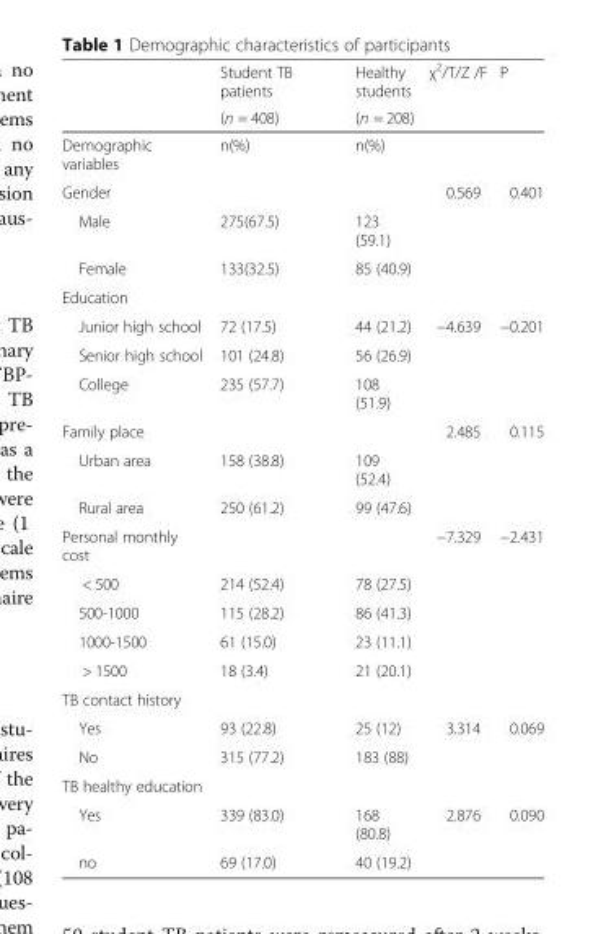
<table><thead><tr><td rowspan="2"></td><td rowspan="2">Student TB patients (n = 408)</td><td rowspan="2">Healthy students (n = 208)</td><td rowspan="2">χ<sup>2</sup>/T/Z /F</td><td rowspan="2">P</td></tr><tr></tr></thead><tbody><tr><td>Demographic variables</td><td>n(%)</td><td>n(%)</td><td></td><td></td></tr><tr><td>Gender</td><td></td><td></td><td>0.569</td><td>0.401</td></tr><tr><td>Male</td><td>275(67.5)</td><td>123 (59.1)</td><td></td><td></td></tr><tr><td>Female</td><td>133(32.5)</td><td>85 (40.9)</td><td></td><td></td></tr><tr><td colspan="5">Education</td></tr><tr><td>Junior high school</td><td>72 (17.5)</td><td>44 (21.2)</td><td>−4.639</td><td>−0.201</td></tr><tr><td>Senior high school</td><td>101 (24.8)</td><td>56 (26.9)</td><td></td><td></td></tr><tr><td>College</td><td>235 (57.7)</td><td>108 (51.9)</td><td></td><td></td></tr><tr><td>Family place</td><td></td><td></td><td>2.485</td><td>0.115</td></tr><tr><td>Urban area</td><td>158 (38.8)</td><td>109 (52.4)</td><td></td><td></td></tr><tr><td>Rural area</td><td>250 (61.2)</td><td>99 (47.6)</td><td></td><td></td></tr><tr><td>Personal monthly cost</td><td></td><td></td><td>−7.329</td><td>−2.431</td></tr><tr><td>&lt; 500</td><td>214 (52.4)</td><td>78 (27.5)</td><td></td><td></td></tr><tr><td>500-1000</td><td>115 (28.2)</td><td>86 (41.3)</td><td></td><td></td></tr><tr><td>1000-1500</td><td>61 (15.0)</td><td>23 (11.1)</td><td></td><td></td></tr><tr><td>&gt; 1500</td><td>18 (3.4)</td><td>21 (20.1)</td><td></td><td></td></tr><tr><td colspan="5">TB contact history</td></tr><tr><td>Yes</td><td>93 (22.8)</td><td>25 (12)</td><td>3.314</td><td>0.069</td></tr><tr><td>No</td><td>315 (77.2)</td><td>183 (88)</td><td></td><td></td></tr><tr><td colspan="5">TB healthy education</td></tr><tr><td>Yes</td><td>339 (83.0)</td><td>168 (80.8)</td><td>2.876</td><td>0.090</td></tr><tr><td>no</td><td>69 (17.0)</td><td>40 (19.2)</td><td></td><td></td></tr></tbody></table>